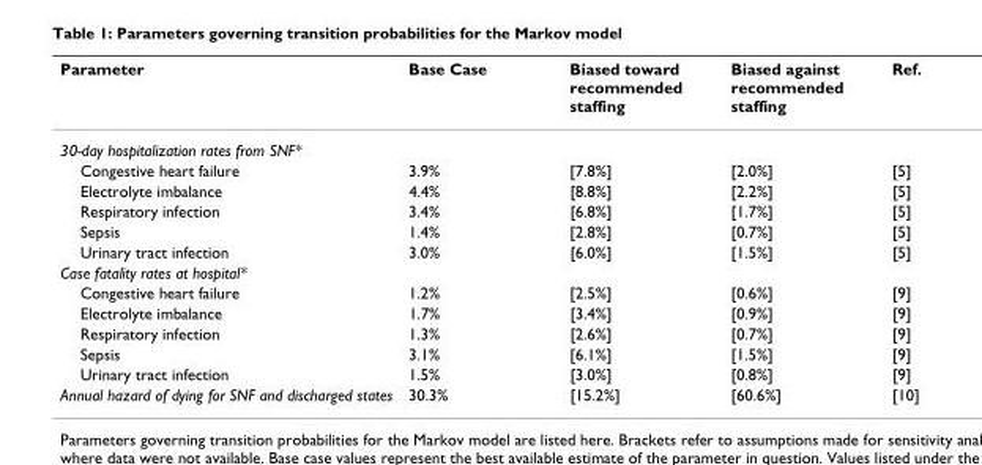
<table><thead><tr><td>Parameter</td><td>Base Case</td><td>Biased toward recommended staffing</td><td>Biased against recommended staffing</td><td>Ref.</td></tr></thead><tbody><tr><td colspan="5">30-day hospitalization rates from SNF*</td></tr><tr><td>Congestive heart failure</td><td>3.9%</td><td>[7.8%]</td><td>[2.0%]</td><td>[5]</td></tr><tr><td>Electrolyte imbalance</td><td>4.4%</td><td>[8.8%]</td><td>[2.2%]</td><td>[5]</td></tr><tr><td>Respiratory infection</td><td>3.4%</td><td>[6.8%]</td><td>[1.7%]</td><td>[5]</td></tr><tr><td>Sepsis</td><td>1.4%</td><td>[2.8%]</td><td>[0.7%]</td><td>[5]</td></tr><tr><td>Urinary tract infection</td><td>3.0%</td><td>[6.0%]</td><td>[1.5%]</td><td>[5]</td></tr><tr><td colspan="5">Case fatality rates at hospital*</td></tr><tr><td>Congestive heart failure</td><td>1.2%</td><td>[2.5%]</td><td>[0.6%]</td><td>[9]</td></tr><tr><td>Electrolyte imbalance</td><td>1.7%</td><td>[3.4%]</td><td>[0.9%]</td><td>[9]</td></tr><tr><td>Respiratory infection</td><td>1.3%</td><td>[2.6%]</td><td>[0.7%]</td><td>[9]</td></tr><tr><td>Sepsis</td><td>3.1%</td><td>[6.1%]</td><td>[1.5%]</td><td>[9]</td></tr><tr><td>Urinary tract infection</td><td>1.5%</td><td>[3.0%]</td><td>[0.8%]</td><td>[9]</td></tr><tr><td>Annual hazard of dying for SNF and discharged states</td><td>30.3%</td><td>[15.2%]</td><td>[60.6%]</td><td>[10]</td></tr></tbody></table>